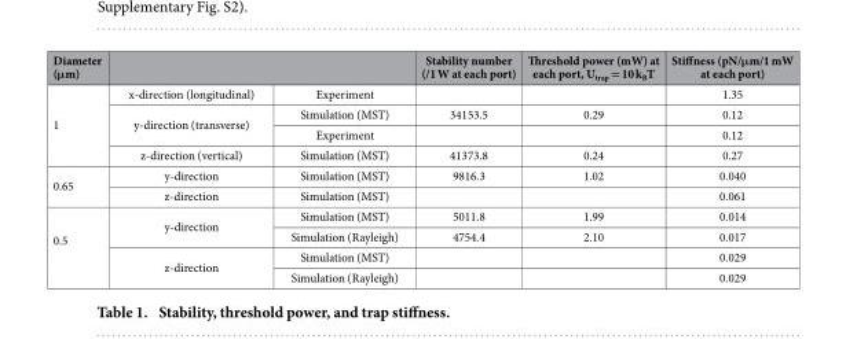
<table><thead><tr><td>Diameter (μm)</td><td></td><td></td><td>Stability number (/1 W at each port)</td><td>Threshold power (mW) at each port, U<sub>trap</sub> = 10 k<sub>B</sub>T</td><td>Stiffness (pN/μm/1 mW at each port)</td></tr></thead><tbody><tr><td rowspan="4">1</td><td>x-direction (longitudinal)</td><td>Experiment</td><td></td><td></td><td>1.35</td></tr><tr><td rowspan="2">y-direction (transverse)</td><td>Simulation (MST)</td><td>34153.5</td><td>0.29</td><td>0.12</td></tr><tr><td>Experiment</td><td></td><td></td><td>0.12</td></tr><tr><td>z-direction (vertical)</td><td>Simulation (MST)</td><td>41373.8</td><td>0.24</td><td>0.27</td></tr><tr><td rowspan="2">0.65</td><td>y-direction</td><td>Simulation (MST)</td><td>9816.3</td><td>1.02</td><td>0.040</td></tr><tr><td>z-direction</td><td>Simulation (MST)</td><td></td><td></td><td>0.061</td></tr><tr><td rowspan="4">0.5</td><td rowspan="2">y-direction</td><td>Simulation (MST)</td><td>5011.8</td><td>1.99</td><td>0.014</td></tr><tr><td>Simulation (Rayleigh)</td><td>4754.4</td><td>2.10</td><td>0.017</td></tr><tr><td rowspan="2">z-direction</td><td>Simulation (MST)</td><td></td><td></td><td>0.029</td></tr><tr><td>Simulation (Rayleigh)</td><td></td><td></td><td>0.029</td></tr></tbody></table>